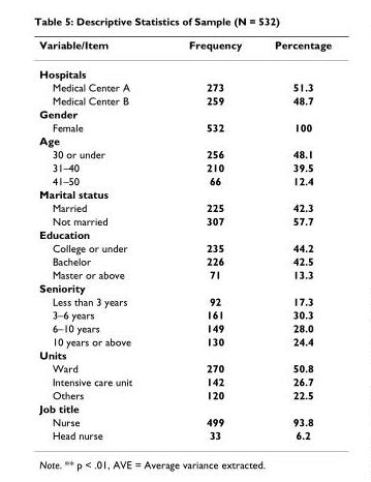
<table><thead><tr><td>Variable/Item</td><td>Frequency</td><td>Percentage</td></tr></thead><tbody><tr><td colspan="3">Hospitals</td></tr><tr><td>Medical Center A</td><td>273</td><td>51.3</td></tr><tr><td>Medical Center B</td><td>259</td><td>48.7</td></tr><tr><td colspan="3">Gender</td></tr><tr><td>Female</td><td>532</td><td>100</td></tr><tr><td colspan="3">Age</td></tr><tr><td>30 or under</td><td>256</td><td>48.1</td></tr><tr><td>31–40</td><td>210</td><td>39.5</td></tr><tr><td>41–50</td><td>66</td><td>12.4</td></tr><tr><td colspan="3">Marital status</td></tr><tr><td>Married</td><td>225</td><td>42.3</td></tr><tr><td>Not married</td><td>307</td><td>57.7</td></tr><tr><td colspan="3">Education</td></tr><tr><td>College or under</td><td>235</td><td>44.2</td></tr><tr><td>Bachelor</td><td>226</td><td>42.5</td></tr><tr><td>Master or above</td><td>71</td><td>13.3</td></tr><tr><td colspan="3">Seniority</td></tr><tr><td>Less than 3 years</td><td>92</td><td>17.3</td></tr><tr><td>3–6 years</td><td>161</td><td>30.3</td></tr><tr><td>6–10 years</td><td>149</td><td>28.0</td></tr><tr><td>10 years or above</td><td>130</td><td>24.4</td></tr><tr><td colspan="3">Units</td></tr><tr><td>Ward</td><td>270</td><td>50.8</td></tr><tr><td>Intensive care unit</td><td>142</td><td>26.7</td></tr><tr><td>Others</td><td>120</td><td>22.5</td></tr><tr><td colspan="3">Job title</td></tr><tr><td>Nurse</td><td>499</td><td>93.8</td></tr><tr><td>Head nurse</td><td>33</td><td>6.2</td></tr></tbody></table>